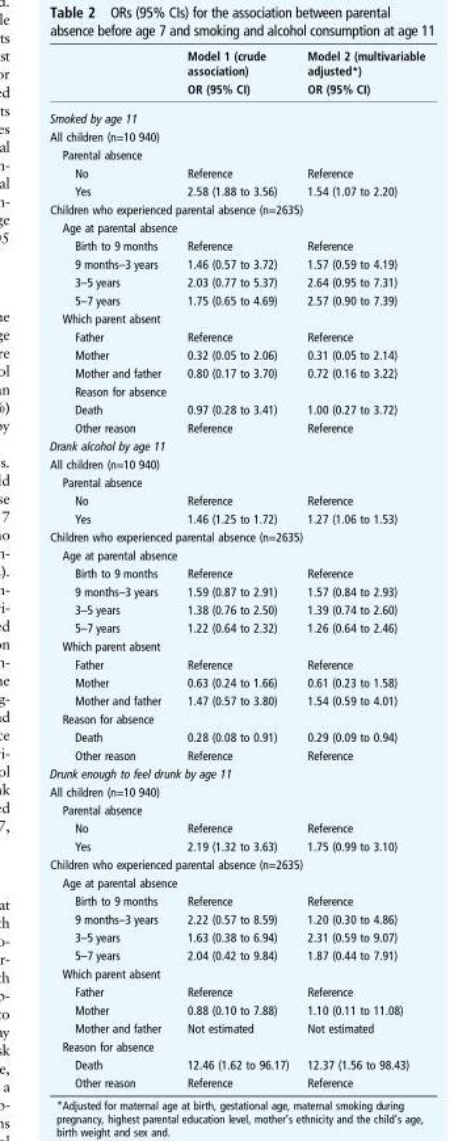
<table><thead><tr><td rowspan="2"></td><td rowspan="2">Model 1 (crude association) OR (95% CI)</td><td rowspan="2">Model 2 (multivariable adjusted*) OR (95% CI)</td></tr><tr></tr></thead><tbody><tr><td colspan="3">Smoked by age 11</td></tr><tr><td colspan="3">All children (n=10 940)</td></tr><tr><td colspan="3">Parental absence</td></tr><tr><td>No</td><td>Reference</td><td>Reference</td></tr><tr><td>Yes</td><td>2.58 (1.88 to 3.56)</td><td>1.54 (1.07 to 2.20)</td></tr><tr><td colspan="3">Children who experienced parental absence (n=2635)</td></tr><tr><td colspan="3">Age at parental absence</td></tr><tr><td>Birth to 9 months</td><td>Reference</td><td>Reference</td></tr><tr><td>9 months–3 years</td><td>1.46 (0.57 to 3.72)</td><td>1.57 (0.59 to 4.19)</td></tr><tr><td>3–5 years</td><td>2.03 (0.77 to 5.37)</td><td>2.64 (0.95 to 7.31)</td></tr><tr><td>5–7 years</td><td>1.75 (0.65 to 4.69)</td><td>2.57 (0.90 to 7.39)</td></tr><tr><td colspan="3">Which parent absent</td></tr><tr><td>Father</td><td>Reference</td><td>Reference</td></tr><tr><td>Mother</td><td>0.32 (0.05 to 2.06)</td><td>0.31 (0.05 to 2.14)</td></tr><tr><td>Mother and father</td><td>0.80 (0.17 to 3.70)</td><td>0.72 (0.16 to 3.22)</td></tr><tr><td colspan="3">Reason for absence</td></tr><tr><td>Death</td><td>0.97 (0.28 to 3.41)</td><td>1.00 (0.27 to 3.72)</td></tr><tr><td>Other reason</td><td>Reference</td><td>Reference</td></tr><tr><td colspan="3">Drank alcohol by age 11</td></tr><tr><td colspan="3">All children (n=10 940)</td></tr><tr><td colspan="3">Parental absence</td></tr><tr><td>No</td><td>Reference</td><td>Reference</td></tr><tr><td>Yes</td><td>1.46 (1.25 to 1.72)</td><td>1.27 (1.06 to 1.53)</td></tr><tr><td colspan="3">Children who experienced parental absence (n=2635)</td></tr><tr><td colspan="3">Age at parental absence</td></tr><tr><td>Birth to 9 months</td><td>Reference</td><td>Reference</td></tr><tr><td>9 months–3 years</td><td>1.59 (0.87 to 2.91)</td><td>1.57 (0.84 to 2.93)</td></tr><tr><td>3–5 years</td><td>1.38 (0.76 to 2.50)</td><td>1.39 (0.74 to 2.60)</td></tr><tr><td>5–7 years</td><td>1.22 (0.64 to 2.32)</td><td>1.26 (0.64 to 2.46)</td></tr><tr><td colspan="3">Which parent absent</td></tr><tr><td>Father</td><td>Reference</td><td>Reference</td></tr><tr><td>Mother</td><td>0.63 (0.24 to 1.66)</td><td>0.61 (0.23 to 1.58)</td></tr><tr><td>Mother and father</td><td>1.47 (0.57 to 3.80)</td><td>1.54 (0.59 to 4.01)</td></tr><tr><td colspan="3">Reason for absence</td></tr><tr><td>Death</td><td>0.28 (0.08 to 0.91)</td><td>0.29 (0.09 to 0.94)</td></tr><tr><td>Other reason</td><td>Reference</td><td>Reference</td></tr><tr><td colspan="3">Drunk enough to feel drunk by age 11</td></tr><tr><td colspan="3">All children (n=10 940)</td></tr><tr><td colspan="3">Parental absence</td></tr><tr><td>No</td><td>Reference</td><td>Reference</td></tr><tr><td>Yes</td><td>2.19 (1.32 to 3.63)</td><td>1.75 (0.99 to 3.10)</td></tr><tr><td colspan="3">Children who experienced parental absence (n=2635)</td></tr><tr><td colspan="3">Age at parental absence</td></tr><tr><td>Birth to 9 months</td><td>Reference</td><td>Reference</td></tr><tr><td>9 months–3 years</td><td>2.22 (0.57 to 8.59)</td><td>1.20 (0.30 to 4.86)</td></tr><tr><td>3–5 years</td><td>1.63 (0.38 to 6.94)</td><td>2.31 (0.59 to 9.07)</td></tr><tr><td>5–7 years</td><td>2.04 (0.42 to 9.84)</td><td>1.87 (0.44 to 7.91)</td></tr><tr><td colspan="3">Which parent absent</td></tr><tr><td>Father</td><td>Reference</td><td>Reference</td></tr><tr><td>Mother</td><td>0.88 (0.10 to 7.88)</td><td>1.10 (0.11 to 11.08)</td></tr><tr><td>Mother and father</td><td>Not estimated</td><td>Not estimated</td></tr><tr><td colspan="3">Reason for absence</td></tr><tr><td>Death</td><td>12.46 (1.62 to 96.17)</td><td>12.37 (1.56 to 98.43)</td></tr><tr><td>Other reason</td><td>Reference</td><td>Reference</td></tr></tbody></table>